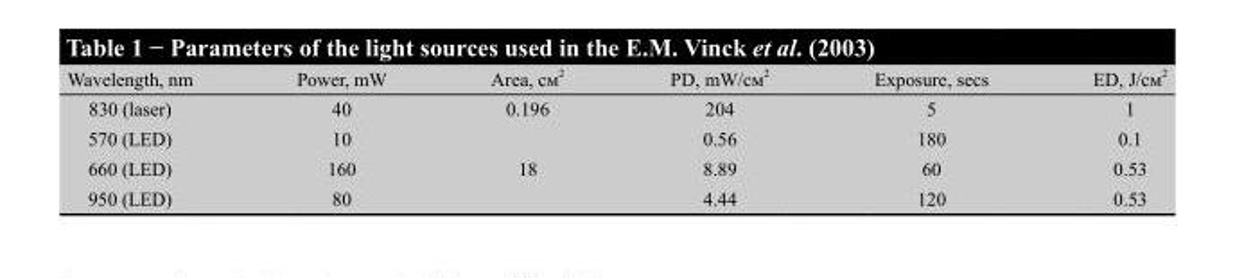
<table><thead><tr><td>Wavelength, nm</td><td>Power, mW</td><td>Area, см 2</td><td>PD, mW/см 2</td><td>Exposure, secs</td><td>ED, J/см 2</td></tr></thead><tbody><tr><td>830 (laser)</td><td>40</td><td>0.196</td><td>204</td><td>5</td><td>1</td></tr><tr><td>570 (LED)</td><td>10</td><td></td><td>0.56</td><td>180</td><td>0.1</td></tr><tr><td>660 (LED)</td><td>160</td><td>18</td><td>8.89</td><td>60</td><td>0.53</td></tr><tr><td>950 (LED)</td><td>80</td><td></td><td>4.44</td><td>120</td><td>0.53</td></tr></tbody></table>